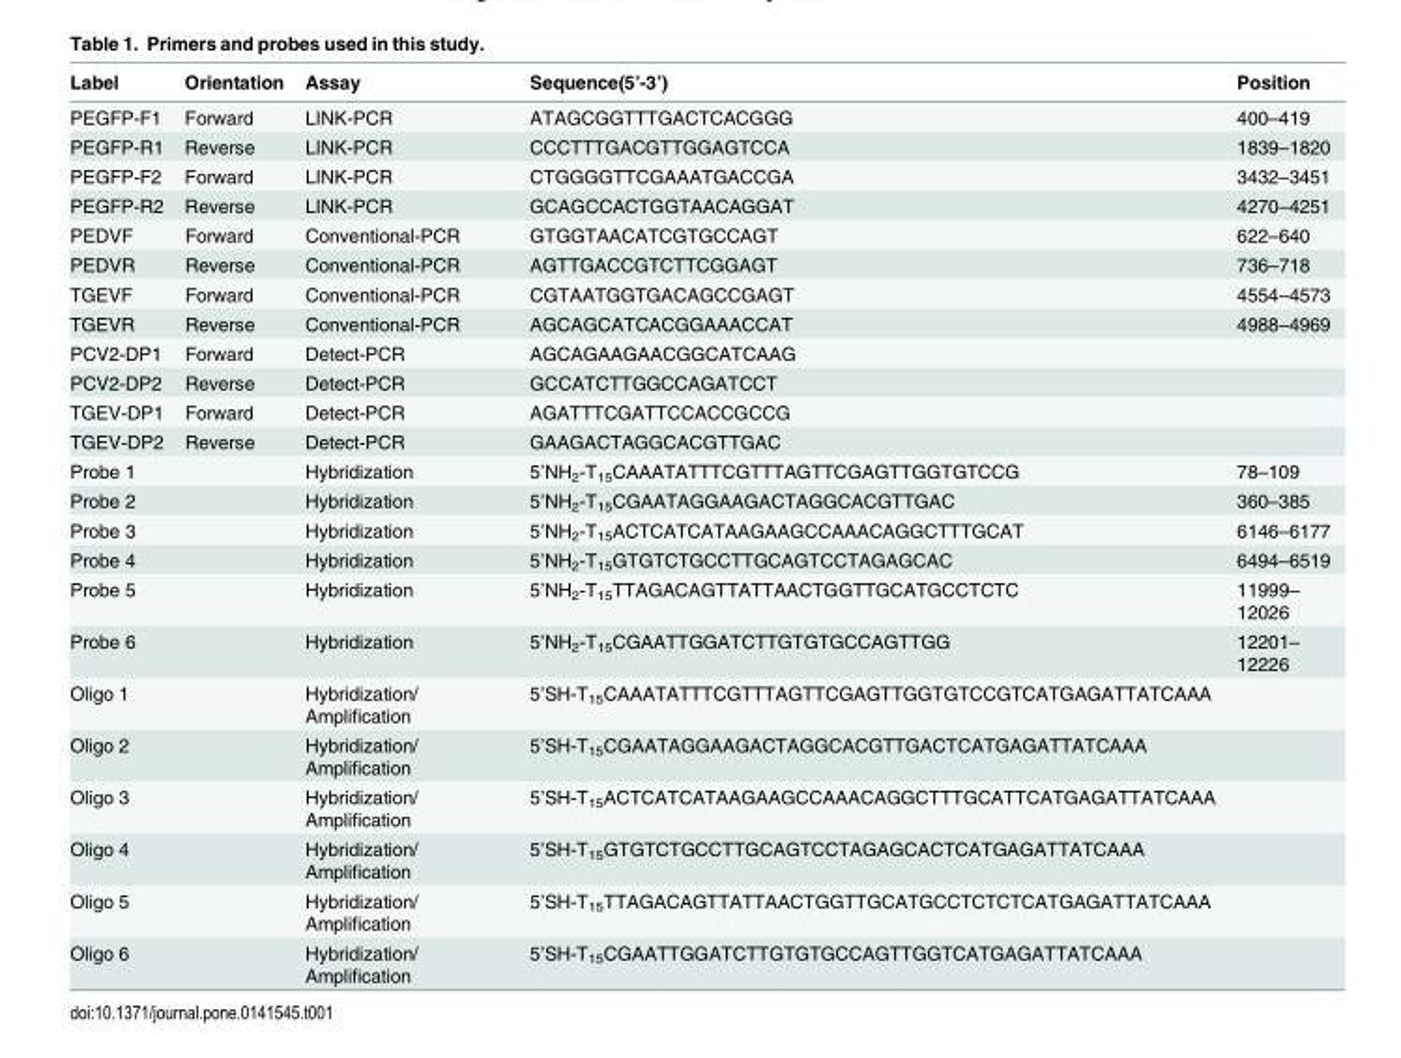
<table><thead><tr><td>Label</td><td>Orientation</td><td>Assay</td><td>Sequence(5’-3’)</td><td>Position</td></tr></thead><tbody><tr><td>PEGFP-F1</td><td>Forward</td><td>LINK-PCR</td><td>ATAGCGGTTTGACTCACGGG</td><td>400–419</td></tr><tr><td>PEGFP-R1</td><td>Reverse</td><td>LINK-PCR</td><td>CCCTTTGACGTTGGAGTCCA</td><td>1839–1820</td></tr><tr><td>PEGFP-F2</td><td>Forward</td><td>LINK-PCR</td><td>CTGGGGTTCGAAATGACCGA</td><td>3432–3451</td></tr><tr><td>PEGFP-R2</td><td>Reverse</td><td>LINK-PCR</td><td>GCAGCCACTGGTAACAGGAT</td><td>4270–4251</td></tr><tr><td>PEDVF</td><td>Forward</td><td>Conventional-PCR</td><td>GTGGTAACATCGTGCCAGT</td><td>622–640</td></tr><tr><td>PEDVR</td><td>Reverse</td><td>Conventional-PCR</td><td>AGTTGACCGTCTTCGGAGT</td><td>736–718</td></tr><tr><td>TGEVF</td><td>Forward</td><td>Conventional-PCR</td><td>CGTAATGGTGACAGCCGAGT</td><td>4554–4573</td></tr><tr><td>TGEVR</td><td>Reverse</td><td>Conventional-PCR</td><td>AGCAGCATCACGGAAACCAT</td><td>4988–4969</td></tr><tr><td>PCV2-DP1</td><td>Forward</td><td>Detect-PCR</td><td>AGCAGAAGAACGGCATCAAG</td><td></td></tr><tr><td>PCV2-DP2</td><td>Reverse</td><td>Detect-PCR</td><td>GCCATCTTGGCCAGATCCT</td><td></td></tr><tr><td>TGEV-DP1</td><td>Forward</td><td>Detect-PCR</td><td>AGATTTCGATTCCACCGCCG</td><td></td></tr><tr><td>TGEV-DP2</td><td>Reverse</td><td>Detect-PCR</td><td>GAAGACTAGGCACGTTGAC</td><td></td></tr><tr><td>Probe 1</td><td></td><td>Hybridization</td><td>5’NH<sub>2</sub>-T<sub>15</sub>CAAATATTTCGTTTAGTTCGAGTTGGTGTCCG</td><td>78–109</td></tr><tr><td>Probe 2</td><td></td><td>Hybridization</td><td>5’NH<sub>2</sub>-T<sub>15</sub>CGAATAGGAAGACTAGGCACGTTGAC</td><td>360–385</td></tr><tr><td>Probe 3</td><td></td><td>Hybridization</td><td>5’NH<sub>2</sub>-T<sub>15</sub>ACTCATCATAAGAAGCCAAACAGGCTTTGCAT</td><td>6146–6177</td></tr><tr><td>Probe 4</td><td></td><td>Hybridization</td><td>5’NH<sub>2</sub>-T<sub>15</sub>GTGTCTGCCTTGCAGTCCTAGAGCAC</td><td>6494–6519</td></tr><tr><td>Probe 5</td><td></td><td>Hybridization</td><td>5’NH<sub>2</sub>-T<sub>15</sub>TTAGACAGTTATTAACTGGTTGCATGCCTCTC</td><td>11999– 12026</td></tr><tr><td>Probe 6</td><td></td><td>Hybridization</td><td>5’NH<sub>2</sub>-T<sub>15</sub>CGAATTGGATCTTGTGTGCCAGTTGG</td><td>12201– 12226</td></tr><tr><td>Oligo 1</td><td></td><td>Hybridization/ Amplification</td><td>5’SH-T<sub>15</sub>CAAATATTTCGTTTAGTTCGAGTTGGTGTCCGTCATGAGATTATCAAA</td><td></td></tr><tr><td>Oligo 2</td><td></td><td>Hybridization/ Amplification</td><td>5’SH-T<sub>15</sub>CGAATAGGAAGACTAGGCACGTTGACTCATGAGATTATCAAA</td><td></td></tr><tr><td>Oligo 3</td><td></td><td>Hybridization/ Amplification</td><td>5’SH-T<sub>15</sub>ACTCATCATAAGAAGCCAAACAGGCTTTGCATTCATGAGATTATCAAA</td><td></td></tr><tr><td>Oligo 4</td><td></td><td>Hybridization/ Amplification</td><td>5’SH-T<sub>15</sub>GTGTCTGCCTTGCAGTCCTAGAGCACTCATGAGATTATCAAA</td><td></td></tr><tr><td>Oligo 5</td><td></td><td>Hybridization/ Amplification</td><td>5’SH-T<sub>15</sub>TTAGACAGTTATTAACTGGTTGCATGCCTCTCTCATGAGATTATCAAA</td><td></td></tr><tr><td>Oligo 6</td><td></td><td>Hybridization/ Amplification</td><td>5’SH-T<sub>15</sub>CGAATTGGATCTTGTGTGCCAGTTGGTCATGAGATTATCAAA</td><td></td></tr></tbody></table>